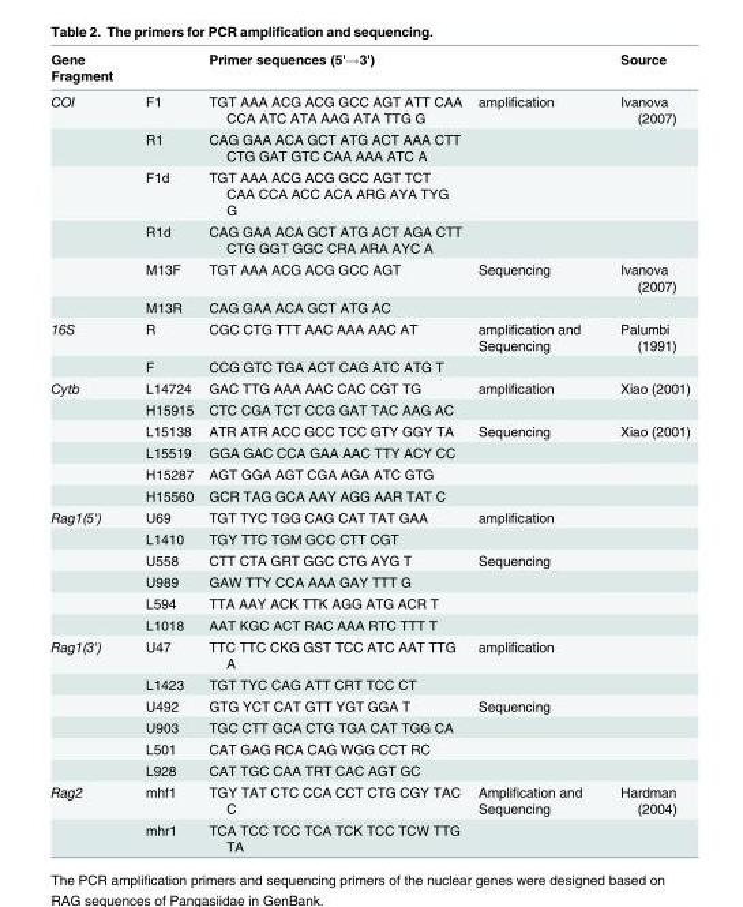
<table><thead><tr><td>Gene Fragment</td><td></td><td>Primer sequences (5&#x27;→3&#x27;)</td><td></td><td>Source</td></tr></thead><tbody><tr><td rowspan="6">COI</td><td>F1</td><td>TGT AAA ACG ACG GCC AGT ATT CAA CCA ATC ATA AAG ATA TTG G</td><td>amplification</td><td>Ivanova (2007)</td></tr><tr><td>R1</td><td>CAG GAA ACA GCT ATG ACT AAA CTT CTG GAT GTC CAA AAA ATC A</td><td></td><td></td></tr><tr><td>F1d</td><td>TGT AAA ACG ACG GCC AGT TCT CAA CCA ACC ACA ARG AYA TYG G</td><td></td><td></td></tr><tr><td>R1d</td><td>CAG GAA ACA GCT ATG ACT AGA CTT CTG GGT GGC CRA ARA AYC A</td><td></td><td></td></tr><tr><td>M13F</td><td>TGT AAA ACG ACG GCC AGT</td><td>Sequencing</td><td>Ivanova (2007)</td></tr><tr><td>M13R</td><td>CAG GAA ACA GCT ATG AC</td><td></td><td></td></tr><tr><td rowspan="2">16S</td><td>R</td><td>CGC CTG TTT AAC AAA AAC AT</td><td>amplification and Sequencing</td><td>Palumbi (1991)</td></tr><tr><td>F</td><td>CCG GTC TGA ACT CAG ATC ATG T</td><td></td><td></td></tr><tr><td rowspan="6">Cytb</td><td>L14724</td><td>GAC TTG AAA AAC CAC CGT TG</td><td>amplification</td><td>Xiao (2001)</td></tr><tr><td>H15915</td><td>CTC CGA TCT CCG GAT TAC AAG AC</td><td></td><td></td></tr><tr><td>L15138</td><td>ATR ATR ACC GCC TCC GTY GGY TA</td><td>Sequencing</td><td>Xiao (2001)</td></tr><tr><td>L15519</td><td>GGA GAC CCA GAA AAC TTY ACY CC</td><td></td><td></td></tr><tr><td>H15287</td><td>AGT GGA AGT CGA AGA ATC GTG</td><td></td><td></td></tr><tr><td>H15560</td><td>GCR TAG GCA AAY AGG AAR TAT C</td><td></td><td></td></tr><tr><td rowspan="6">Rag1(5&#x27;)</td><td>U69</td><td>TGT TYC TGG CAG CAT TAT GAA</td><td>amplification</td><td></td></tr><tr><td>L1410</td><td>TGY TTC TGM GCC CTT CGT</td><td></td><td></td></tr><tr><td>U558</td><td>CTT CTA GRT GGC CTG AYG T</td><td>Sequencing</td><td></td></tr><tr><td>U989</td><td>GAW TTY CCA AAA GAY TTT G</td><td></td><td></td></tr><tr><td>L594</td><td>TTA AAY ACK TTK AGG ATG ACR T</td><td></td><td></td></tr><tr><td>L1018</td><td>AAT KGC ACT RAC AAA RTC TTT T</td><td></td><td></td></tr><tr><td rowspan="6">Rag1(3&#x27;)</td><td>U47</td><td>TTC TTC CKG GST TCC ATC AAT TTG A</td><td>amplification</td><td></td></tr><tr><td>L1423</td><td>TGT TYC CAG ATT CRT TCC CT</td><td></td><td></td></tr><tr><td>U492</td><td>GTG YCT CAT GTT YGT GGA T</td><td>Sequencing</td><td></td></tr><tr><td>U903</td><td>TGC CTT GCA CTG TGA CAT TGG CA</td><td></td><td></td></tr><tr><td>L501</td><td>CAT GAG RCA CAG WGG CCT RC</td><td></td><td></td></tr><tr><td>L928</td><td>CAT TGC CAA TRT CAC AGT GC</td><td></td><td></td></tr><tr><td rowspan="2">Rag2</td><td>mhf1</td><td>TGY TAT CTC CCA CCT CTG CGY TAC C</td><td>Amplification and Sequencing</td><td>Hardman (2004)</td></tr><tr><td>mhr1</td><td>TCA TCC TCC TCA TCK TCC TCW TTG TA</td><td></td><td></td></tr></tbody></table>